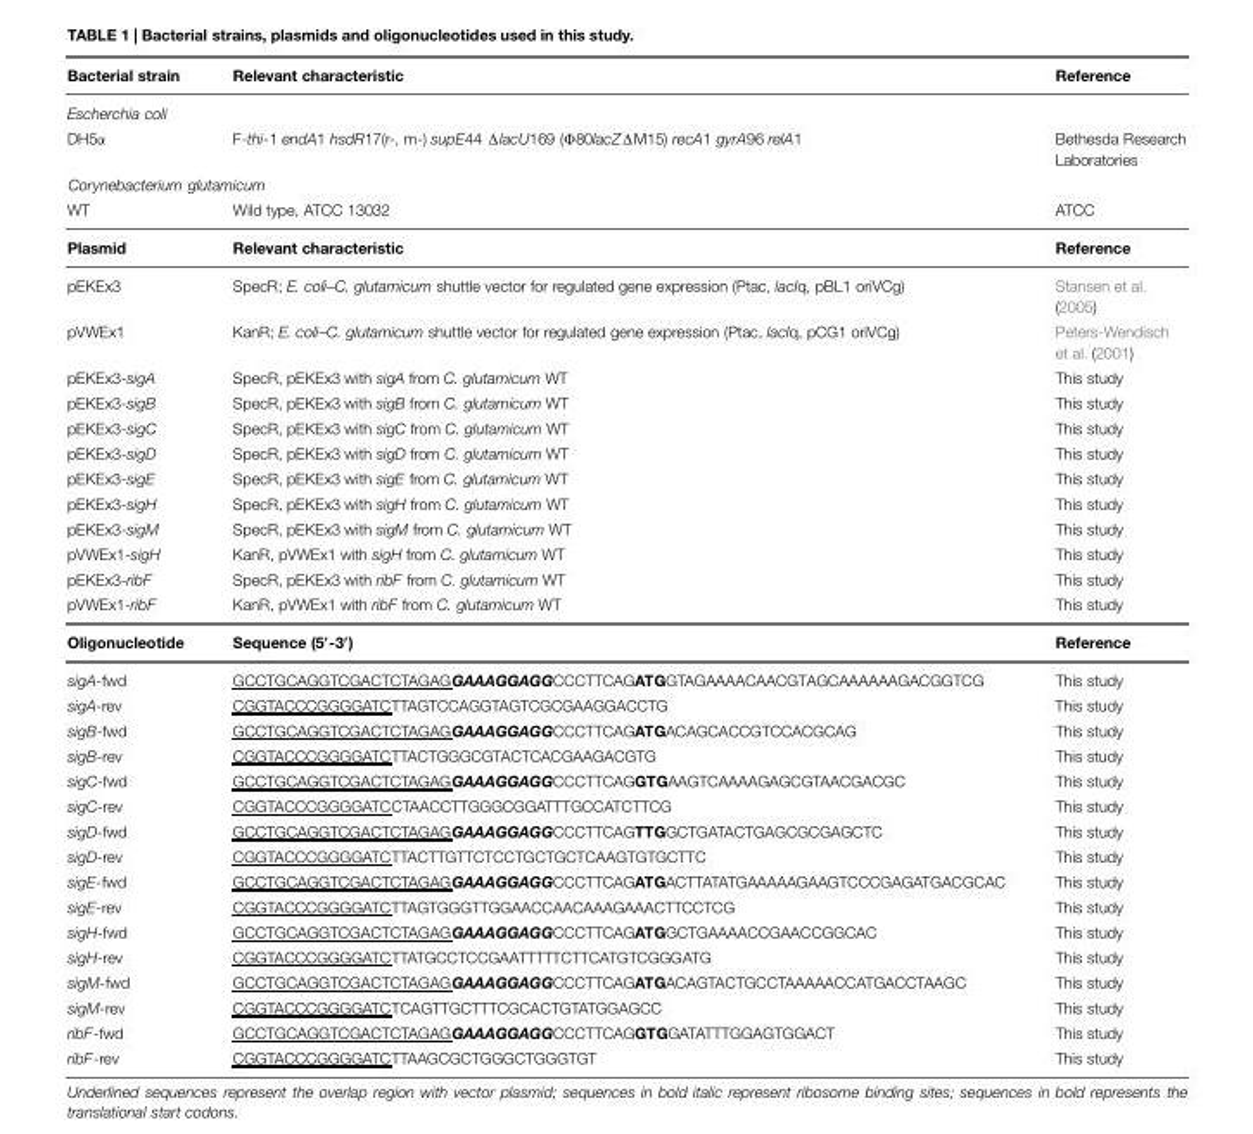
<table><thead><tr><td>Bacterial strain</td><td>Relevant characteristic</td><td>Reference</td></tr></thead><tbody><tr><td colspan="3">Escherchia coli</td></tr><tr><td>DH5α</td><td>F-thi-1 endA1 hsdR17(r-, m-) supE44 ΔlacU169 (Φ80lacZΔM15) recA1 gyrA96 relA1</td><td>Bethesda Research Laboratories</td></tr><tr><td colspan="3">Corynebacterium glutamicum</td></tr><tr><td>WT</td><td>Wild type, ATCC 13032</td><td>ATCC</td></tr><tr><td>Plasmid</td><td>Relevant characteristic</td><td>Reference</td></tr><tr><td>pEKEx3</td><td>SpecR; E. coli–C. glutamicum shuttle vector for regulated gene expression (Ptac, lacIq, pBL1 oriVCg)</td><td>Stansen et al. (2005)</td></tr><tr><td>pVWEx1</td><td>KanR; E. coli–C. glutamicum shuttle vector for regulated gene expression (Ptac, lacIq, pCG1 oriVCg)</td><td>Peters-Wendisch et al. (2001)</td></tr><tr><td>pEKEx3-sigA</td><td>SpecR, pEKEx3 with sigA from C. glutamicum WT</td><td>This study</td></tr><tr><td>pEKEx3-sigB</td><td>SpecR, pEKEx3 with sigB from C. glutamicum WT</td><td>This study</td></tr><tr><td>pEKEx3-sigC</td><td>SpecR, pEKEx3 with sigC from C. glutamicum WT</td><td>This study</td></tr><tr><td>pEKEx3-sigD</td><td>SpecR, pEKEx3 with sigD from C. glutamicum WT</td><td>This study</td></tr><tr><td>pEKEx3-sigE</td><td>SpecR, pEKEx3 with sigE from C. glutamicum WT</td><td>This study</td></tr><tr><td>pEKEx3-sigH</td><td>SpecR, pEKEx3 with sigH from C. glutamicum WT</td><td>This study</td></tr><tr><td>pEKEx3-sigM</td><td>SpecR, pEKEx3 with sigM from C. glutamicum WT</td><td>This study</td></tr><tr><td>pVWEx1-sigH</td><td>KanR, pVWEx1 with sigH from C. glutamicum WT</td><td>This study</td></tr><tr><td>pEKEx3-ribF</td><td>SpecR, pEKEx3 with ribF from C. glutamicum WT</td><td>This study</td></tr><tr><td>pVWEx1-ribF</td><td>KanR, pVWEx1 with ribF from C. glutamicum WT</td><td>This study</td></tr><tr><td>Oligonucleotide</td><td>Sequence (5′-3′)</td><td>Reference</td></tr><tr><td>sigA-fwd</td><td>GCCTGCAGGTCGACTCTAGAGGAAAGGAGGCCCTTCAGATGGTAGAAAACAACGTAGCAAAAAAGACGGTCG</td><td>This study</td></tr><tr><td>sigA-rev</td><td>CGGTACCCGGGGATCTTAGTCCAGGTAGTCGCGAAGGACCTG</td><td>This study</td></tr><tr><td>sigB-fwd</td><td>GCCTGCAGGTCGACTCTAGAGGAAAGGAGGCCCTTCAGATGACAGCACCGTCCACGCAG</td><td>This study</td></tr><tr><td>sigB-rev</td><td>CGGTACCCGGGGATCTTACTGGGCGTACTCACGAAGACGTG</td><td>This study</td></tr><tr><td>sigC-fwd</td><td>GCCTGCAGGTCGACTCTAGAGGAAAGGAGGCCCTTCAGGTGAAGTCAAAAGAGCGTAACGACGC</td><td>This study</td></tr><tr><td>sigC-rev</td><td>CGGTACCCGGGGATCCTAACCTTGGGCGGATTTGCCATCTTCG</td><td>This study</td></tr><tr><td>sigD-fwd</td><td>GCCTGCAGGTCGACTCTAGAGGAAAGGAGGCCCTTCAGTTGGCTGATACTGAGCGCGAGCTC</td><td>This study</td></tr><tr><td>sigD-rev</td><td>CGGTACCCGGGGATCTTACTTGTTCTCCTGCTGCTCAAGTGTGCTTC</td><td>This study</td></tr><tr><td>sigE-fwd</td><td>GCCTGCAGGTCGACTCTAGAGGAAAGGAGGCCCTTCAGATGACTTATATGAAAAAGAAGTCCCGAGATGACGCAC</td><td>This study</td></tr><tr><td>sigE-rev</td><td>CGGTACCCGGGGATCTTAGTGGGTTGGAACCAACAAAGAAACTTCCTCG</td><td>This study</td></tr><tr><td>sigH-fwd</td><td>GCCTGCAGGTCGACTCTAGAGGAAAGGAGGCCCTTCAGATGGCTGAAAACCGAACCGGCAC</td><td>This study</td></tr><tr><td>sigH-rev</td><td>CGGTACCCGGGGATCTTATGCCTCCGAATTTTTCTTCATGTCGGGATG</td><td>This study</td></tr><tr><td>sigM-fwd</td><td>GCCTGCAGGTCGACTCTAGAGGAAAGGAGGCCCTTCAGATGACAGTACTGCCTAAAAACCATGACCTAAGC</td><td>This study</td></tr><tr><td>sigM-rev</td><td>CGGTACCCGGGGATCTCAGTTGCTTTCGCACTGTATGGAGCC</td><td>This study</td></tr><tr><td>ribF-fwd</td><td>GCCTGCAGGTCGACTCTAGAGGAAAGGAGGCCCTTCAGGTGGATATTTGGAGTGGACT</td><td>This study</td></tr><tr><td>ribF-rev</td><td>CGGTACCCGGGGATCTTAAGCGCTGGGCTGGGTGT</td><td>This study</td></tr></tbody></table>